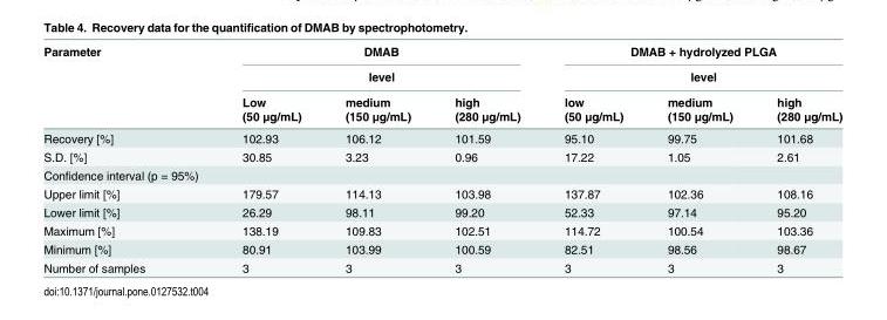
<table><thead><tr><td rowspan="4">Parameter</td><td rowspan="2" colspan="3">DMAB level</td><td rowspan="2" colspan="3">DMAB + hydrolyzed PLGA level</td></tr><tr></tr><tr><td rowspan="2">Low (50 μg/mL)</td><td rowspan="2">medium (150 μg/mL)</td><td rowspan="2">high (280 μg/mL)</td><td rowspan="2">low (50 μg/mL)</td><td rowspan="2">medium (150 μg/mL)</td><td rowspan="2">high (280 μg/mL)</td></tr><tr></tr></thead><tbody><tr><td>Recovery [%]</td><td>102.93</td><td>106.12</td><td>101.59</td><td>95.10</td><td>99.75</td><td>101.68</td></tr><tr><td>S.D. [%]</td><td>30.85</td><td>3.23</td><td>0.96</td><td>17.22</td><td>1.05</td><td>2.61</td></tr><tr><td colspan="7">Confidence interval (p = 95%)</td></tr><tr><td>Upper limit [%]</td><td>179.57</td><td>114.13</td><td>103.98</td><td>137.87</td><td>102.36</td><td>108.16</td></tr><tr><td>Lower limit [%]</td><td>26.29</td><td>98.11</td><td>99.20</td><td>52.33</td><td>97.14</td><td>95.20</td></tr><tr><td>Maximum [%]</td><td>138.19</td><td>109.83</td><td>102.51</td><td>114.72</td><td>100.54</td><td>103.36</td></tr><tr><td>Minimum [%]</td><td>80.91</td><td>103.99</td><td>100.59</td><td>82.51</td><td>98.56</td><td>98.67</td></tr><tr><td>Number of samples</td><td>3</td><td>3</td><td>3</td><td>3</td><td>3</td><td>3</td></tr></tbody></table>